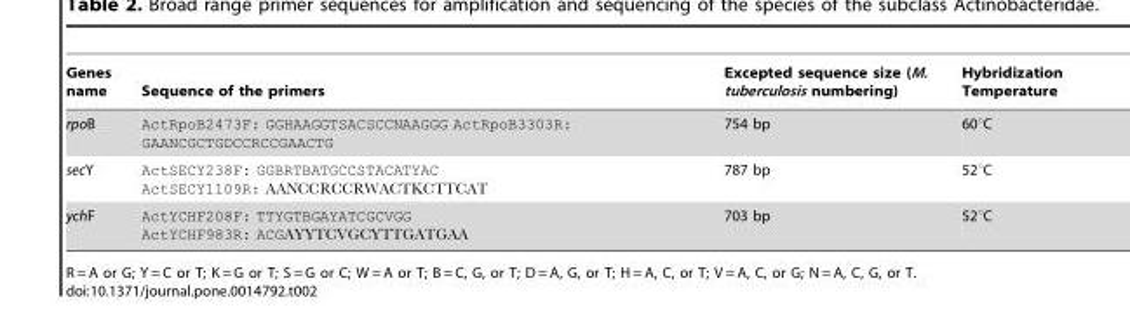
<table><thead><tr><td>Genes name</td><td>Sequence of the primers</td><td>Excepted sequence size (M. tuberculosis numbering)</td><td>Hybridization Temperature</td></tr></thead><tbody><tr><td>rpoB</td><td>ActRpoB2473F: GGHAAGGTSACSCCNAAGGG ActRpoB3303R: GAANCGCTGDCCRCCGAACTG</td><td>754 bp</td><td>60°C</td></tr><tr><td>secY</td><td>ActSECY238F: GGBRTBATGCCSTACATYAC ActSECY1109R: AANCCRCCRWACTKCTTCAT</td><td>787 bp</td><td>52°C</td></tr><tr><td>ychF</td><td>ActYCHF208F: TTYGTBGAYATCGCVGG ActYCHF983R: ACGAYYTCVGCYTTGATGAA</td><td>703 bp</td><td>52°C</td></tr></tbody></table>